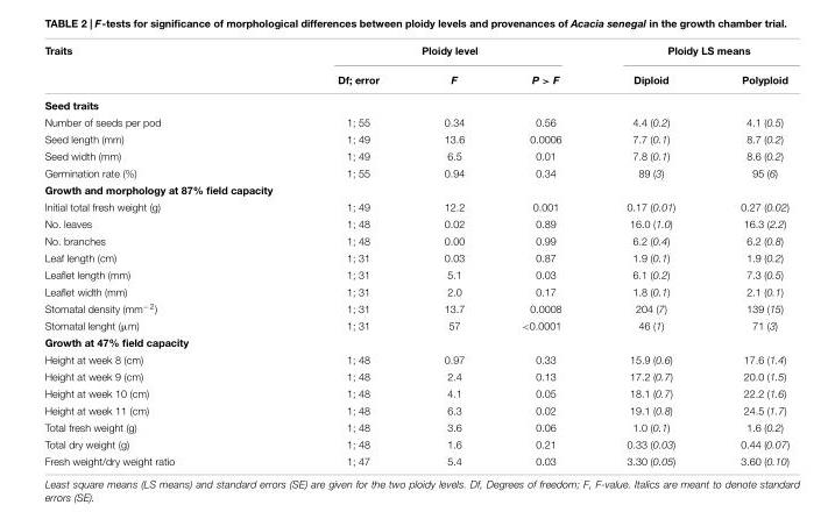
<table><thead><tr><td rowspan="2">Traits</td><td colspan="3">Ploidy level</td><td colspan="2">Ploidy LS means</td></tr><tr><td>Df; error</td><td>F</td><td>P &gt; F</td><td>Diploid</td><td>Polyploid</td></tr></thead><tbody><tr><td colspan="6">Seed traits</td></tr><tr><td>Number of seeds per pod</td><td>1; 55</td><td>0.34</td><td>0.56</td><td>4.4 (0.2)</td><td>4.1 (0.5)</td></tr><tr><td>Seed length (mm)</td><td>1; 49</td><td>13.6</td><td>0.0006</td><td>7.7 (0.1)</td><td>8.7 (0.2)</td></tr><tr><td>Seed width (mm)</td><td>1; 49</td><td>6.5</td><td>0.01</td><td>7.8 (0.1)</td><td>8.6 (0.2)</td></tr><tr><td>Germination rate (%)</td><td>1; 55</td><td>0.94</td><td>0.34</td><td>89 (3)</td><td>95 (6)</td></tr><tr><td colspan="6">Growth and morphology at 87% field capacity</td></tr><tr><td>Initial total fresh weight (g)</td><td>1; 49</td><td>12.2</td><td>0.001</td><td>0.17 (0.01)</td><td>0.27 (0.02)</td></tr><tr><td>No. leaves</td><td>1; 48</td><td>0.02</td><td>0.89</td><td>16.0 (1.0)</td><td>16.3 (2.2)</td></tr><tr><td>No. branches</td><td>1; 48</td><td>0.00</td><td>0.99</td><td>6.2 (0.4)</td><td>6.2 (0.8)</td></tr><tr><td>Leaf length (cm)</td><td>1; 31</td><td>0.03</td><td>0.87</td><td>1.9 (0.1)</td><td>1.9 (0.2)</td></tr><tr><td>Leaflet length (mm)</td><td>1; 31</td><td>5.1</td><td>0.03</td><td>6.1 (0.2)</td><td>7.3 (0.5)</td></tr><tr><td>Leaflet width (mm)</td><td>1; 31</td><td>2.0</td><td>0.17</td><td>1.8 (0.1)</td><td>2.1 (0.1)</td></tr><tr><td>Stomatal density (mm<sup>−2</sup>)</td><td>1; 31</td><td>13.7</td><td>0.0008</td><td>204 (7)</td><td>139 (15)</td></tr><tr><td>Stomatal lenght (µm)</td><td>1; 31</td><td>57</td><td>&lt;0.0001</td><td>46 (1)</td><td>71 (3)</td></tr><tr><td colspan="6">Growth at 47% field capacity</td></tr><tr><td>Height at week 8 (cm)</td><td>1; 48</td><td>0.97</td><td>0.33</td><td>15.9 (0.6)</td><td>17.6 (1.4)</td></tr><tr><td>Height at week 9 (cm)</td><td>1; 48</td><td>2.4</td><td>0.13</td><td>17.2 (0.7)</td><td>20.0 (1.5)</td></tr><tr><td>Height at week 10 (cm)</td><td>1; 48</td><td>4.1</td><td>0.05</td><td>18.1 (0.7)</td><td>22.2 (1.6)</td></tr><tr><td>Height at week 11 (cm)</td><td>1; 48</td><td>6.3</td><td>0.02</td><td>19.1 (0.8)</td><td>24.5 (1.7)</td></tr><tr><td>Total fresh weight (g)</td><td>1; 48</td><td>3.6</td><td>0.06</td><td>1.0 (0.1)</td><td>1.6 (0.2)</td></tr><tr><td>Total dry weight (g)</td><td>1; 48</td><td>1.6</td><td>0.21</td><td>0.33 (0.03)</td><td>0.44 (0.07)</td></tr><tr><td>Fresh weight/dry weight ratio</td><td>1; 47</td><td>5.4</td><td>0.03</td><td>3.30 (0.05)</td><td>3.60 (0.10)</td></tr></tbody></table>